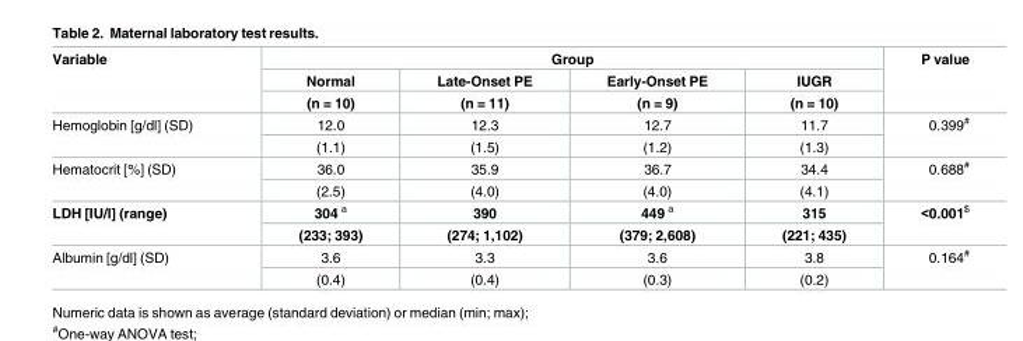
<table><thead><tr><td rowspan="3">Variable</td><td colspan="4">Group</td><td rowspan="3">P value</td></tr><tr><td rowspan="2">Normal (n = 10)</td><td rowspan="2">Late-Onset PE (n = 11)</td><td rowspan="2">Early-Onset PE (n = 9)</td><td rowspan="2">IUGR (n = 10)</td></tr><tr></tr></thead><tbody><tr><td rowspan="2">Hemoglobin [g/dl] (SD)</td><td>12.0</td><td>12.3</td><td>12.7</td><td>11.7</td><td rowspan="2">0.399<sup>#</sup></td></tr><tr><td>(1.1)</td><td>(1.5)</td><td>(1.2)</td><td>(1.3)</td></tr><tr><td rowspan="2">Hematocrit [%] (SD)</td><td>36.0</td><td>35.9</td><td>36.7</td><td>34.4</td><td rowspan="2">0.688<sup>#</sup></td></tr><tr><td>(2.5)</td><td>(4.0)</td><td>(4.0)</td><td>(4.1)</td></tr><tr><td rowspan="2">LDH [IU/l] (range)</td><td>304 <sup>a</sup></td><td>390</td><td>449 <sup>a</sup></td><td>315</td><td rowspan="2">&lt;0.001<sup>$</sup></td></tr><tr><td>(233; 393)</td><td>(274; 1,102)</td><td>(379; 2,608)</td><td>(221; 435)</td></tr><tr><td rowspan="2">Albumin [g/dl] (SD)</td><td>3.6</td><td>3.3</td><td>3.6</td><td>3.8</td><td rowspan="2">0.164<sup>#</sup></td></tr><tr><td>(0.4)</td><td>(0.4)</td><td>(0.3)</td><td>(0.2)</td></tr></tbody></table>